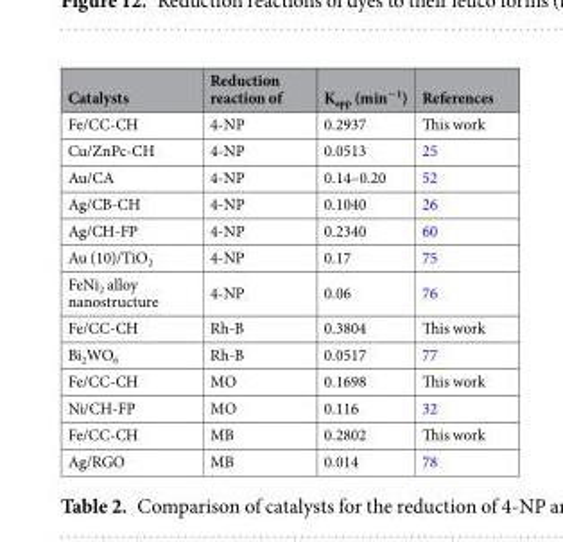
<table><thead><tr><td>Catalysts</td><td>Reduction reaction of</td><td>K<sub>app</sub> (min<sup>−1</sup>)</td><td>References</td></tr></thead><tbody><tr><td>Fe/CC-CH</td><td>4-NP</td><td>0.2937</td><td>This work</td></tr><tr><td>Cu/ZnPc-CH</td><td>4-NP</td><td>0.0513</td><td>25</td></tr><tr><td>Au/CA</td><td>4-NP</td><td>0.14–0.20</td><td>52</td></tr><tr><td>Ag/CB-CH</td><td>4-NP</td><td>0.1040</td><td>26</td></tr><tr><td>Ag/CH-FP</td><td>4-NP</td><td>0.2340</td><td>60</td></tr><tr><td>Au (10)/TiO<sub>2</sub></td><td>4-NP</td><td>0.17</td><td>75</td></tr><tr><td>FeNi<sub>2</sub> alloy nanostructure</td><td>4-NP</td><td>0.06</td><td>76</td></tr><tr><td>Fe/CC-CH</td><td>Rh-B</td><td>0.3804</td><td>This work</td></tr><tr><td>Bi<sub>2</sub>WO<sub>6</sub></td><td>Rh-B</td><td>0.0517</td><td>77</td></tr><tr><td>Fe/CC-CH</td><td>MO</td><td>0.1698</td><td>This work</td></tr><tr><td>Ni/CH-FP</td><td>MO</td><td>0.116</td><td>32</td></tr><tr><td>Fe/CC-CH</td><td>MB</td><td>0.2802</td><td>This work</td></tr><tr><td>Ag/RGO</td><td>MB</td><td>0.014</td><td>78</td></tr></tbody></table>